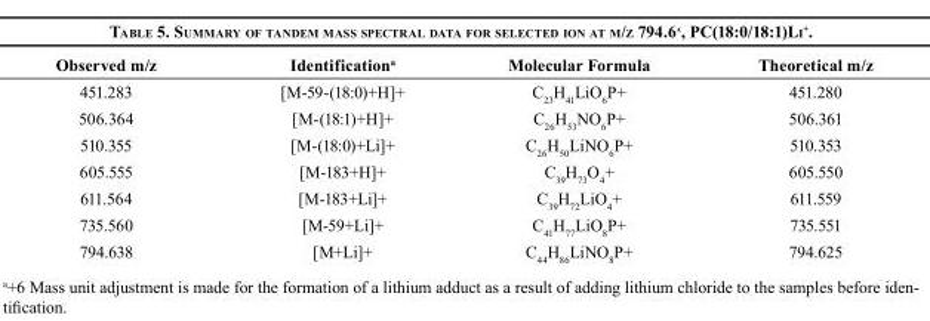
<table><thead><tr><td>Observed m/z</td><td>Identification<sup>a</sup></td><td>Molecular Formula</td><td>Theoretical m/z</td></tr></thead><tbody><tr><td>451.283</td><td>[M-59-(18:0)+H]+</td><td>C<sub>23</sub>H<sub>41</sub>LiO<sub>6</sub>P+</td><td>451.280</td></tr><tr><td>506.364</td><td>[M-(18:1)+H]+</td><td>C<sub>26</sub>H<sub>53</sub>NO<sub>6</sub>P+</td><td>506.361</td></tr><tr><td>510.355</td><td>[M-(18:0)+Li]+</td><td>C<sub>26</sub>H<sub>50</sub>LiNO<sub>6</sub>P+</td><td>510.353</td></tr><tr><td>605.555</td><td>[M-183+H]+</td><td>C<sub>39</sub>H<sub>73</sub>O<sub>4</sub>+</td><td>605.550</td></tr><tr><td>611.564</td><td>[M-183+Li]+</td><td>C<sub>39</sub>H<sub>72</sub>LiO<sub>4</sub>+</td><td>611.559</td></tr><tr><td>735.560</td><td>[M-59+Li]+</td><td>C<sub>41</sub>H<sub>77</sub>LiO<sub>8</sub>P+</td><td>735.551</td></tr><tr><td>794.638</td><td>[M+Li]+</td><td>C<sub>44</sub>H<sub>86</sub>LiNO<sub>8</sub>P+</td><td>794.625</td></tr></tbody></table>